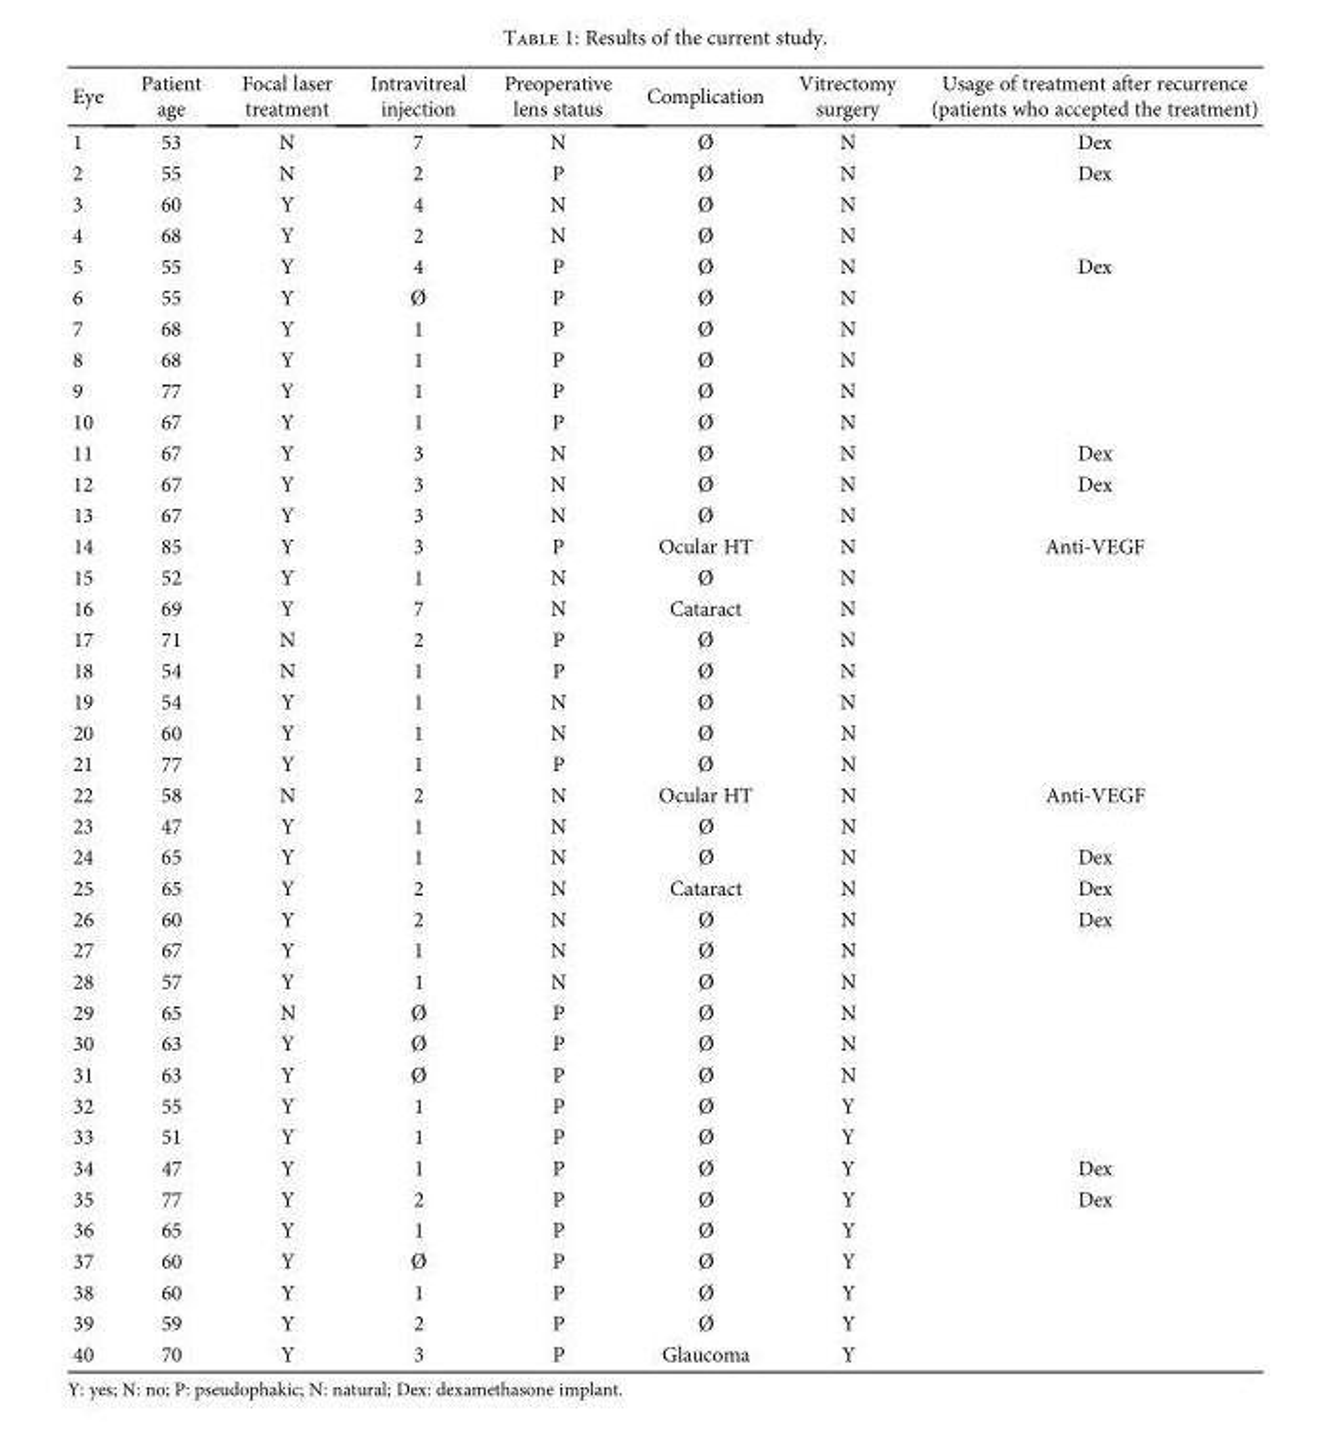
<table><thead><tr><td>Eye</td><td>Patient age</td><td>Focal laser treatment</td><td>Intravitreal injection</td><td>Preoperative lens status</td><td>Complication</td><td>Vitrectomy surgery</td><td>Usage of treatment after recurrence (patients who accepted the treatment)</td></tr></thead><tbody><tr><td>1</td><td>53</td><td>N</td><td>7</td><td>N</td><td>Ø</td><td>N</td><td>Dex</td></tr><tr><td>2</td><td>55</td><td>N</td><td>2</td><td>P</td><td>Ø</td><td>N</td><td>Dex</td></tr><tr><td>3</td><td>60</td><td>Y</td><td>4</td><td>N</td><td>Ø</td><td>N</td><td></td></tr><tr><td>4</td><td>68</td><td>Y</td><td>2</td><td>N</td><td>Ø</td><td>N</td><td></td></tr><tr><td>5</td><td>55</td><td>Y</td><td>4</td><td>P</td><td>Ø</td><td>N</td><td>Dex</td></tr><tr><td>6</td><td>55</td><td>Y</td><td>Ø</td><td>P</td><td>Ø</td><td>N</td><td></td></tr><tr><td>7</td><td>68</td><td>Y</td><td>1</td><td>P</td><td>Ø</td><td>N</td><td></td></tr><tr><td>8</td><td>68</td><td>Y</td><td>1</td><td>P</td><td>Ø</td><td>N</td><td></td></tr><tr><td>9</td><td>77</td><td>Y</td><td>1</td><td>P</td><td>Ø</td><td>N</td><td></td></tr><tr><td>10</td><td>67</td><td>Y</td><td>1</td><td>P</td><td>Ø</td><td>N</td><td></td></tr><tr><td>11</td><td>67</td><td>Y</td><td>3</td><td>N</td><td>Ø</td><td>N</td><td>Dex</td></tr><tr><td>12</td><td>67</td><td>Y</td><td>3</td><td>N</td><td>Ø</td><td>N</td><td>Dex</td></tr><tr><td>13</td><td>67</td><td>Y</td><td>3</td><td>N</td><td>Ø</td><td>N</td><td></td></tr><tr><td>14</td><td>85</td><td>Y</td><td>3</td><td>P</td><td>Ocular HT</td><td>N</td><td>Anti-VEGF</td></tr><tr><td>15</td><td>52</td><td>Y</td><td>1</td><td>N</td><td>Ø</td><td>N</td><td></td></tr><tr><td>16</td><td>69</td><td>Y</td><td>7</td><td>N</td><td>Cataract</td><td>N</td><td></td></tr><tr><td>17</td><td>71</td><td>N</td><td>2</td><td>P</td><td>Ø</td><td>N</td><td></td></tr><tr><td>18</td><td>54</td><td>N</td><td>1</td><td>P</td><td>Ø</td><td>N</td><td></td></tr><tr><td>19</td><td>54</td><td>Y</td><td>1</td><td>N</td><td>Ø</td><td>N</td><td></td></tr><tr><td>20</td><td>60</td><td>Y</td><td>1</td><td>N</td><td>Ø</td><td>N</td><td></td></tr><tr><td>21</td><td>77</td><td>Y</td><td>1</td><td>P</td><td>Ø</td><td>N</td><td></td></tr><tr><td>22</td><td>58</td><td>N</td><td>2</td><td>N</td><td>Ocular HT</td><td>N</td><td>Anti-VEGF</td></tr><tr><td>23</td><td>47</td><td>Y</td><td>1</td><td>N</td><td>Ø</td><td>N</td><td></td></tr><tr><td>24</td><td>65</td><td>Y</td><td>1</td><td>N</td><td>Ø</td><td>N</td><td>Dex</td></tr><tr><td>25</td><td>65</td><td>Y</td><td>2</td><td>N</td><td>Cataract</td><td>N</td><td>Dex</td></tr><tr><td>26</td><td>60</td><td>Y</td><td>2</td><td>N</td><td>Ø</td><td>N</td><td>Dex</td></tr><tr><td>27</td><td>67</td><td>Y</td><td>1</td><td>N</td><td>Ø</td><td>N</td><td></td></tr><tr><td>28</td><td>57</td><td>Y</td><td>1</td><td>N</td><td>Ø</td><td>N</td><td></td></tr><tr><td>29</td><td>65</td><td>N</td><td>Ø</td><td>P</td><td>Ø</td><td>N</td><td></td></tr><tr><td>30</td><td>63</td><td>Y</td><td>Ø</td><td>P</td><td>Ø</td><td>N</td><td></td></tr><tr><td>31</td><td>63</td><td>Y</td><td>Ø</td><td>P</td><td>Ø</td><td>N</td><td></td></tr><tr><td>32</td><td>55</td><td>Y</td><td>1</td><td>P</td><td>Ø</td><td>Y</td><td></td></tr><tr><td>33</td><td>51</td><td>Y</td><td>1</td><td>P</td><td>Ø</td><td>Y</td><td></td></tr><tr><td>34</td><td>47</td><td>Y</td><td>1</td><td>P</td><td>Ø</td><td>Y</td><td>Dex</td></tr><tr><td>35</td><td>77</td><td>Y</td><td>2</td><td>P</td><td>Ø</td><td>Y</td><td>Dex</td></tr><tr><td>36</td><td>65</td><td>Y</td><td>1</td><td>P</td><td>Ø</td><td>Y</td><td></td></tr><tr><td>37</td><td>60</td><td>Y</td><td>Ø</td><td>P</td><td>Ø</td><td>Y</td><td></td></tr><tr><td>38</td><td>60</td><td>Y</td><td>1</td><td>P</td><td>Ø</td><td>Y</td><td></td></tr><tr><td>39</td><td>59</td><td>Y</td><td>2</td><td>P</td><td>Ø</td><td>Y</td><td></td></tr><tr><td>40</td><td>70</td><td>Y</td><td>3</td><td>P</td><td>Glaucoma</td><td>Y</td><td></td></tr></tbody></table>